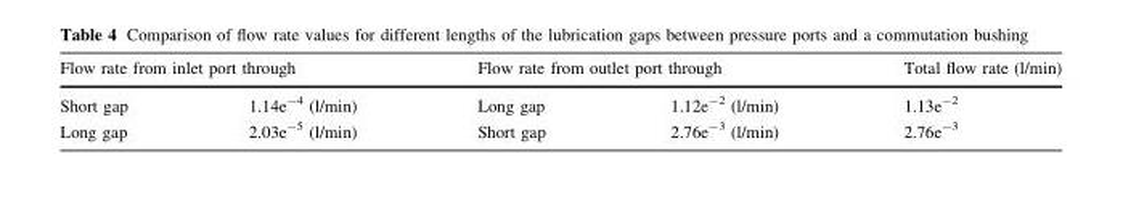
<table><thead><tr><td colspan="2">Flow rate from inlet port through</td><td colspan="2">Flow rate from outlet port through</td><td rowspan="2">Total flow rate (l/min) 1.13e<sup>-2</sup></td></tr><tr><td>Short gap</td><td>1.14e<sup>-4</sup> (l/min)</td><td>Long gap</td><td>1.12e<sup>-2</sup> (l/min)</td></tr></thead><tbody><tr><td>Long gap</td><td>2.03e<sup>-5</sup> (l/min)</td><td>Short gap</td><td>2.76e<sup>-3</sup> (l/min)</td><td>2.76e<sup>-3</sup></td></tr></tbody></table>